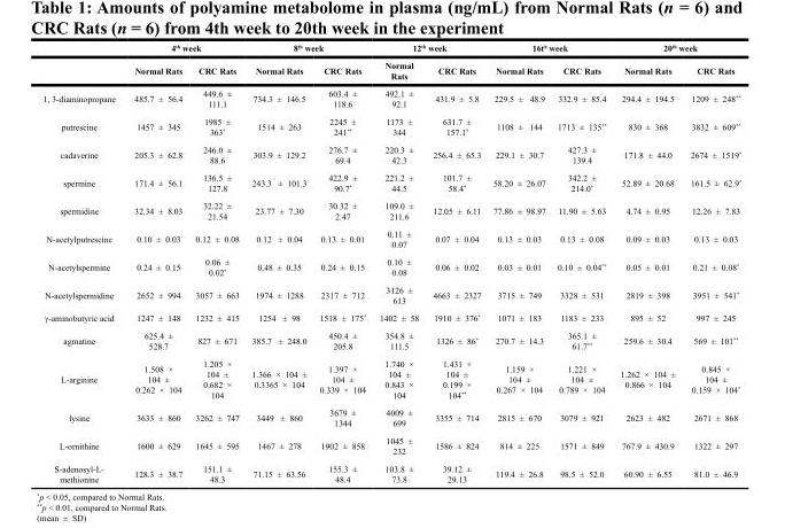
<table><thead><tr><td rowspan="2"></td><td colspan="2">4<sup>th</sup> week</td><td colspan="2">8<sup>th</sup> week</td><td colspan="2">12<sup>th</sup> week</td><td colspan="2">16<sup>th</sup> week</td><td colspan="2">20<sup>th</sup> week</td></tr><tr><td>Normal Rats</td><td>CRC Rats</td><td>Normal Rats</td><td>CRC Rats</td><td>Normal Rats</td><td>CRC Rats</td><td>Normal Rats</td><td>CRC Rats</td><td>Normal Rats</td><td>CRC Rats</td></tr></thead><tbody><tr><td>1, 3-diaminopropane</td><td>485.7 ± 56.4</td><td>449.6 ± 111.1</td><td>734.3 ± 146.5</td><td>603.4 ± 118.6</td><td>492.1 ± 92.1</td><td>431.9 ± 5.8</td><td>229.5 ± 48.9</td><td>332.9 ± 85.4</td><td>294.4 ± 194.5</td><td>1209 ± 248**</td></tr><tr><td>putrescine</td><td>1457 ± 345</td><td>1985 ± 363*</td><td>1514 ± 263</td><td>2245 ± 241**</td><td>1173 ± 344</td><td>631.7 ± 157.1*</td><td>1108 ± 144</td><td>1713 ± 135**</td><td>830 ± 368</td><td>3832 ± 609**</td></tr><tr><td>cadaverine</td><td>205.3 ± 62.8</td><td>246.0 ± 88.6</td><td>303.9 ± 129.2</td><td>276.7 ± 69.4</td><td>220.3 ± 42.3</td><td>256.4 ± 65.3</td><td>229.1 ± 30.7</td><td>427.3 ± 139.4</td><td>171.8 ± 44.0</td><td>2674 ± 1519*</td></tr><tr><td>spermine</td><td>171.4 ± 56.1</td><td>136.5 ± 127.8</td><td>243.3 ± 101.3</td><td>422.9 ± 90.7*</td><td>221.2 ± 44.5</td><td>101.7 ± 58.4*</td><td>58.20 ± 26.07</td><td>342.2 ± 214.0*</td><td>52.89 ± 20.68</td><td>161.5 ± 62.9*</td></tr><tr><td>spermidine</td><td>32.34 ± 8.03</td><td>32.22 ± 21.54</td><td>23.77 ± 7.30</td><td>30.32 ± 2.47</td><td>109.0 ± 211.6</td><td>12.05 ± 6.11</td><td>77.86 ± 98.97</td><td>11.90 ± 5.63</td><td>4.74 ± 0.95</td><td>12.26 ± 7.83</td></tr><tr><td>N-acetylputrescine</td><td>0.10 ± 0.03</td><td>0.12 ± 0.08</td><td>0.12 ± 0.04</td><td>0.13 ± 0.01</td><td>0.11 ± 0.07</td><td>0.07 ± 0.04</td><td>0.13 ± 0.03</td><td>0.13 ± 0.08</td><td>0.09 ± 0.03</td><td>0.13 ± 0.03</td></tr><tr><td>N-acetylspermine</td><td>0.24 ± 0.15</td><td>0.06 ± 0.02*</td><td>0.48 ± 0.35</td><td>0.24 ± 0.15</td><td>0.10 ± 0.08</td><td>0.06 ± 0.02</td><td>0.03 ± 0.01</td><td>0.10 ± 0.04**</td><td>0.05 ± 0.01</td><td>0.21 ± 0.08*</td></tr><tr><td>N-acetylspermidine</td><td>2652 ± 994</td><td>3057 ± 663</td><td>1974 ± 1288</td><td>2317 ± 712</td><td>3126 ± 613</td><td>4663 ± 2327</td><td>3715 ± 749</td><td>3328 ± 531</td><td>2819 ± 398</td><td>3951 ± 541*</td></tr><tr><td>γ-aminobutyric acid</td><td>1247 ± 148</td><td>1232 ± 415</td><td>1254 ± 98</td><td>1518 ± 175*</td><td>1402 ± 58</td><td>1910 ± 376*</td><td>1071 ± 183</td><td>1183 ± 233</td><td>895 ± 52</td><td>997 ± 245</td></tr><tr><td>agmatine</td><td>625.4 ± 528.7</td><td>827 ± 671</td><td>385.7 ± 248.0</td><td>450.4 ± 205.8</td><td>354.8 ± 111.5</td><td>1326 ± 86*</td><td>270.7 ± 14.3</td><td>365.1 ± 61.7**</td><td>259.6 ± 30.4</td><td>569 ± 101**</td></tr><tr><td>L-arginine</td><td>1.508 × 104 ± 0.262 × 104</td><td>1.205 × 104 ± 0.682 × 104</td><td>1.366 × 104 ± 0.3365 × 104</td><td>1.397 × 104 ± 0.339 × 104</td><td>1.740 × 104 ± 0.843 × 104</td><td>1.431 × 104 ± 0.199 × 104**</td><td>1.159 × 104 ± 0.267 × 104</td><td>1.221 × 104 ± 0.789 × 104</td><td>1.262 × 104 ± 0.866 × 104</td><td>0.845 × 104 ± 0.159 × 104*</td></tr><tr><td>lysine</td><td>3633 ± 860</td><td>3262 ± 747</td><td>3449 ± 860</td><td>3679 ± 1344</td><td>4009 ± 699</td><td>3355 ± 714</td><td>2815 ± 670</td><td>3079 ± 921</td><td>2623 ± 482</td><td>2671 ± 868</td></tr><tr><td>L-ornithine</td><td>1600 ± 629</td><td>1645 ± 595</td><td>1467 ± 278</td><td>1902 ± 858</td><td>1045 ± 232</td><td>1586 ± 824</td><td>814 ± 225</td><td>1571 ± 849</td><td>767.9 ± 430.9</td><td>1322 ± 297</td></tr><tr><td>S-adenosyl-L- methionine</td><td>128.3 ± 38.7</td><td>151.1 ± 48.3</td><td>71.15 ± 63.56</td><td>155.3 ± 48.4</td><td>103.8 ± 73.8</td><td>39.12 ± 29.13</td><td>119.4 ± 26.8</td><td>98.5 ± 52.0</td><td>60.90 ± 6.55</td><td>81.0 ± 46.9</td></tr></tbody></table>